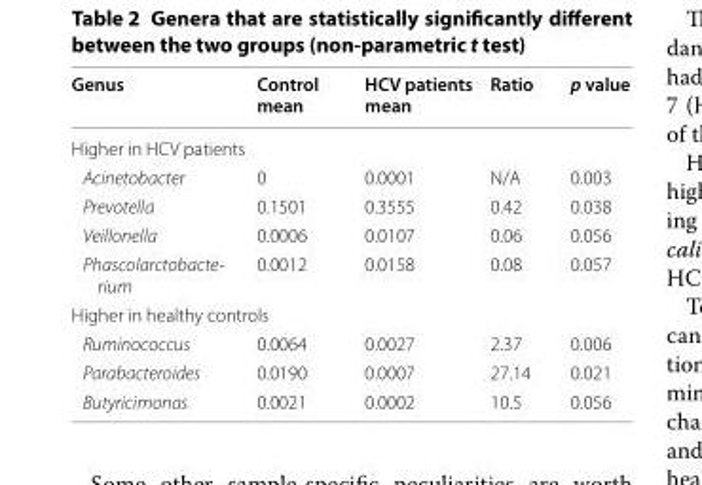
<table><thead><tr><td>Genus</td><td>Control mean</td><td>HCV patients mean</td><td>Ratio</td><td>p value</td></tr></thead><tbody><tr><td colspan="5">Higher in HCV patients</td></tr><tr><td>Acinetobacter</td><td>0</td><td>0.0001</td><td>N/A</td><td>0.003</td></tr><tr><td>Prevotella</td><td>0.1501</td><td>0.3555</td><td>0.42</td><td>0.038</td></tr><tr><td>Veillonella</td><td>0.0006</td><td>0.0107</td><td>0.06</td><td>0.056</td></tr><tr><td>Phascolarctobacte- rium</td><td>0.0012</td><td>0.0158</td><td>0.08</td><td>0.057</td></tr><tr><td colspan="5">Higher in healthy controls</td></tr><tr><td>Ruminococcus</td><td>0.0064</td><td>0.0027</td><td>2.37</td><td>0.006</td></tr><tr><td>Parabacteroides</td><td>0.0190</td><td>0.0007</td><td>27.14</td><td>0.021</td></tr><tr><td>Butyricimonas</td><td>0.0021</td><td>0.0002</td><td>10.5</td><td>0.056</td></tr></tbody></table>